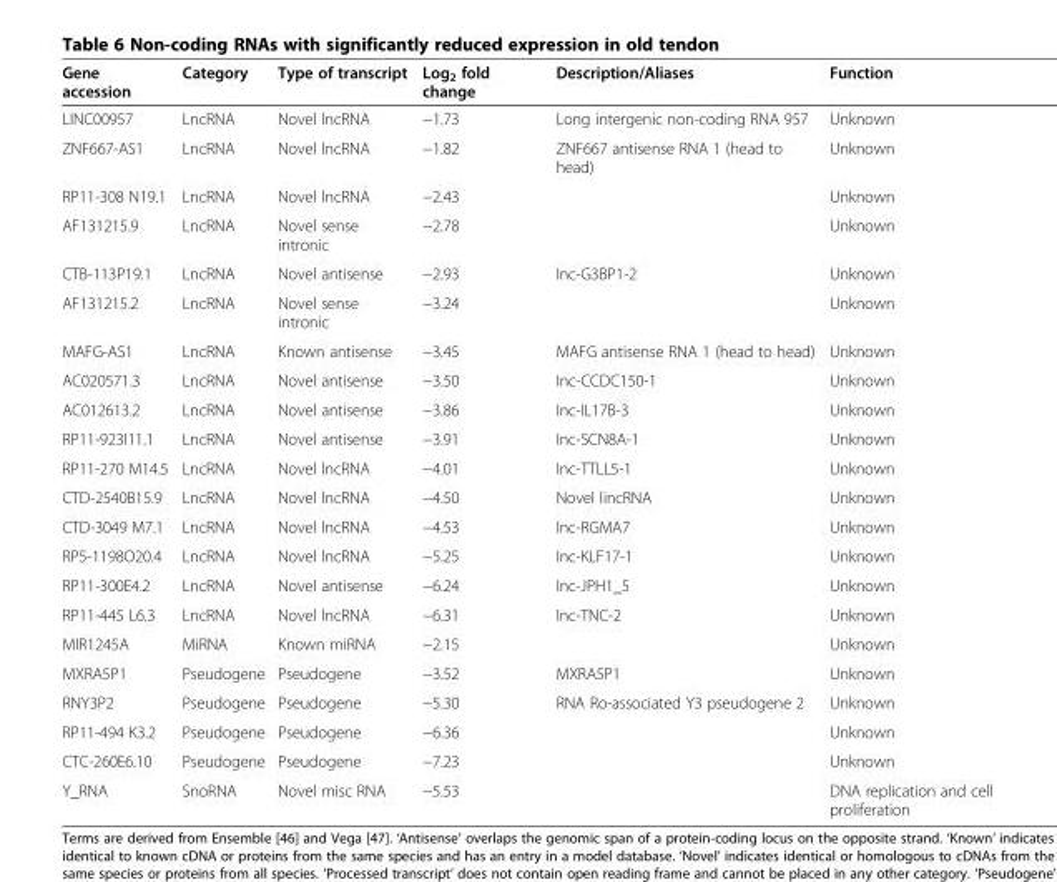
<table><thead><tr><td>Gene accession</td><td>Category</td><td>Type of transcript</td><td>Log<sub>2</sub> fold change</td><td>Description/Aliases</td><td>Function</td></tr></thead><tbody><tr><td>LINC00957</td><td>LncRNA</td><td>Novel lncRNA</td><td>−1.73</td><td>Long intergenic non-coding RNA 957</td><td>Unknown</td></tr><tr><td>ZNF667-AS1</td><td>LncRNA</td><td>Novel lncRNA</td><td>−1.82</td><td>ZNF667 antisense RNA 1 (head to head)</td><td>Unknown</td></tr><tr><td>RP11-308 N19.1</td><td>LncRNA</td><td>Novel lncRNA</td><td>−2.43</td><td></td><td>Unknown</td></tr><tr><td>AF131215.9</td><td>LncRNA</td><td>Novel sense intronic</td><td>−2.78</td><td></td><td>Unknown</td></tr><tr><td>CTB-113P19.1</td><td>LncRNA</td><td>Novel antisense</td><td>−2.93</td><td>Inc-G3BP1-2</td><td>Unknown</td></tr><tr><td>AF131215.2</td><td>LncRNA</td><td>Novel sense intronic</td><td>−3.24</td><td></td><td>Unknown</td></tr><tr><td>MAFG-AS1</td><td>LncRNA</td><td>Known antisense</td><td>−3.45</td><td>MAFG antisense RNA 1 (head to head)</td><td>Unknown</td></tr><tr><td>AC020571.3</td><td>LncRNA</td><td>Novel antisense</td><td>−3.50</td><td>Inc-CCDC150-1</td><td>Unknown</td></tr><tr><td>AC012613.2</td><td>LncRNA</td><td>Novel antisense</td><td>−3.86</td><td>Inc-IL17B-3</td><td>Unknown</td></tr><tr><td>RP11-923I11.1</td><td>LncRNA</td><td>Novel antisense</td><td>−3.91</td><td>Inc-SCN8A-1</td><td>Unknown</td></tr><tr><td>RP11-270 M14.5</td><td>LncRNA</td><td>Novel lncRNA</td><td>−4.01</td><td>Inc-TTLL5-1</td><td>Unknown</td></tr><tr><td>CTD-2540B15.9</td><td>LncRNA</td><td>Novel lncRNA</td><td>−4.50</td><td>Novel lincRNA</td><td>Unknown</td></tr><tr><td>CTD-3049 M7.1</td><td>LncRNA</td><td>Novel lncRNA</td><td>−4.53</td><td>Inc-RGMA7</td><td>Unknown</td></tr><tr><td>RP5-1198O20.4</td><td>LncRNA</td><td>Novel lncRNA</td><td>−5.25</td><td>Inc-KLF17-1</td><td>Unknown</td></tr><tr><td>RP11-300E4.2</td><td>LncRNA</td><td>Novel antisense</td><td>−6.24</td><td>Inc-JPH1_5</td><td>Unknown</td></tr><tr><td>RP11-445 L6.3</td><td>LncRNA</td><td>Novel lncRNA</td><td>−6.31</td><td>Inc-TNC-2</td><td>Unknown</td></tr><tr><td>MIR1245A</td><td>MiRNA</td><td>Known miRNA</td><td>−2.15</td><td></td><td>Unknown</td></tr><tr><td>MXRA5P1</td><td>Pseudogene</td><td>Pseudogene</td><td>−3.52</td><td>MXRA5P1</td><td>Unknown</td></tr><tr><td>RNY3P2</td><td>Pseudogene</td><td>Pseudogene</td><td>−5.30</td><td>RNA Ro-associated Y3 pseudogene 2</td><td>Unknown</td></tr><tr><td>RP11-494 K3.2</td><td>Pseudogene</td><td>Pseudogene</td><td>−6.36</td><td></td><td>Unknown</td></tr><tr><td>CTC-260E6.10</td><td>Pseudogene</td><td>Pseudogene</td><td>−7.23</td><td></td><td>Unknown</td></tr><tr><td>Y_RNA</td><td>SnoRNA</td><td>Novel misc RNA</td><td>−5.53</td><td></td><td>DNA replication and cell proliferation</td></tr></tbody></table>